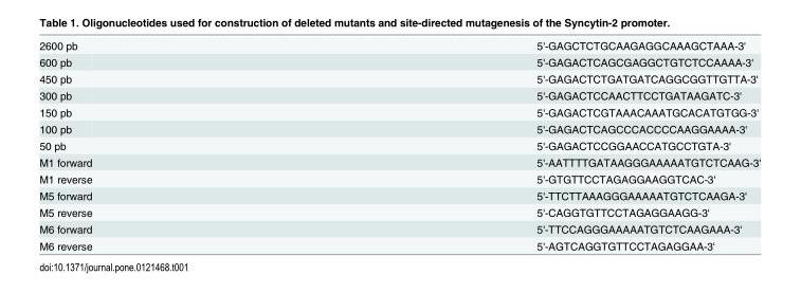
<table><tbody><tr><td>2600 pb</td><td>5&#x27;-GAGCTCTGCAAGAGGCAAAGCTAAA-3&#x27;</td></tr><tr><td>600 pb</td><td>5&#x27;-GAGACTCAGCGAGGCTGTCTCCAAAA-3&#x27;</td></tr><tr><td>450 pb</td><td>5&#x27;-GAGACTCTGATGATCAGGCGGTTGTTA-3&#x27;</td></tr><tr><td>300 pb</td><td>5&#x27;-GAGACTCCAACTTCCTGATAAGATC-3&#x27;</td></tr><tr><td>150 pb</td><td>5&#x27;-GAGACTCGTAAACAAATGCACATGTGG-3&#x27;</td></tr><tr><td>100 pb</td><td>5&#x27;-GAGACTCAGCCCACCCCAAGGAAAA-3&#x27;</td></tr><tr><td>50 pb</td><td>5&#x27;-GAGACTCCGGAACCATGCCTGTA-3&#x27;</td></tr><tr><td>M1 forward</td><td>5&#x27;-AATTTTGATAAGGGAAAAATGTCTCAAG-3&#x27;</td></tr><tr><td>M1 reverse</td><td>5&#x27;-GTGTTCCTAGAGGAAGGTCAC-3&#x27;</td></tr><tr><td>M5 forward</td><td>5&#x27;-TTCTTAAAGGGAAAAATGTCTCAAGA-3&#x27;</td></tr><tr><td>M5 reverse</td><td>5&#x27;-CAGGTGTTCCTAGAGGAAGG-3&#x27;</td></tr><tr><td>M6 forward</td><td>5&#x27;-TTCCAGGGAAAAATGTCTCAAGAAA-3&#x27;</td></tr><tr><td>M6 reverse</td><td>5&#x27;-AGTCAGGTGTTCCTAGAGGAA-3&#x27;</td></tr></tbody></table>